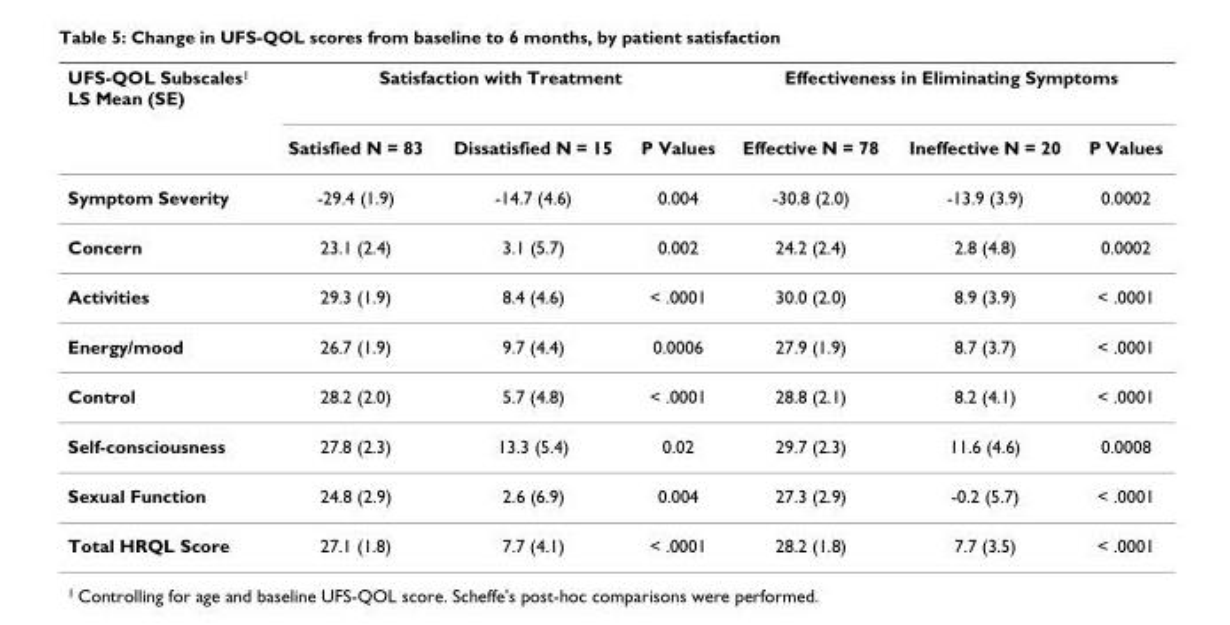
<table><thead><tr><td rowspan="2">UFS-QOL Subscales<sup>1</sup> LS Mean (SE)</td><td colspan="3">Satisfaction with Treatment</td><td colspan="3">Effectiveness in Eliminating Symptoms</td></tr><tr><td>Satisfied N = 83</td><td>Dissatisfied N = 15</td><td>P Values</td><td>Effective N = 78</td><td>Ineffective N = 20</td><td>P Values</td></tr></thead><tbody><tr><td>Symptom Severity</td><td>-29.4 (1.9)</td><td>-14.7 (4.6)</td><td>0.004</td><td>-30.8 (2.0)</td><td>-13.9 (3.9)</td><td>0.0002</td></tr><tr><td>Concern</td><td>23.1 (2.4)</td><td>3.1 (5.7)</td><td>0.002</td><td>24.2 (2.4)</td><td>2.8 (4.8)</td><td>0.0002</td></tr><tr><td>Activities</td><td>29.3 (1.9)</td><td>8.4 (4.6)</td><td>&lt; .0001</td><td>30.0 (2.0)</td><td>8.9 (3.9)</td><td>&lt; .0001</td></tr><tr><td>Energy/mood</td><td>26.7 (1.9)</td><td>9.7 (4.4)</td><td>0.0006</td><td>27.9 (1.9)</td><td>8.7 (3.7)</td><td>&lt; .0001</td></tr><tr><td>Control</td><td>28.2 (2.0)</td><td>5.7 (4.8)</td><td>&lt; .0001</td><td>28.8 (2.1)</td><td>8.2 (4.1)</td><td>&lt; .0001</td></tr><tr><td>Self-consciousness</td><td>27.8 (2.3)</td><td>13.3 (5.4)</td><td>0.02</td><td>29.7 (2.3)</td><td>11.6 (4.6)</td><td>0.0008</td></tr><tr><td>Sexual Function</td><td>24.8 (2.9)</td><td>2.6 (6.9)</td><td>0.004</td><td>27.3 (2.9)</td><td>-0.2 (5.7)</td><td>&lt; .0001</td></tr><tr><td>Total HRQL Score</td><td>27.1 (1.8)</td><td>7.7 (4.1)</td><td>&lt; .0001</td><td>28.2 (1.8)</td><td>7.7 (3.5)</td><td>&lt; .0001</td></tr></tbody></table>